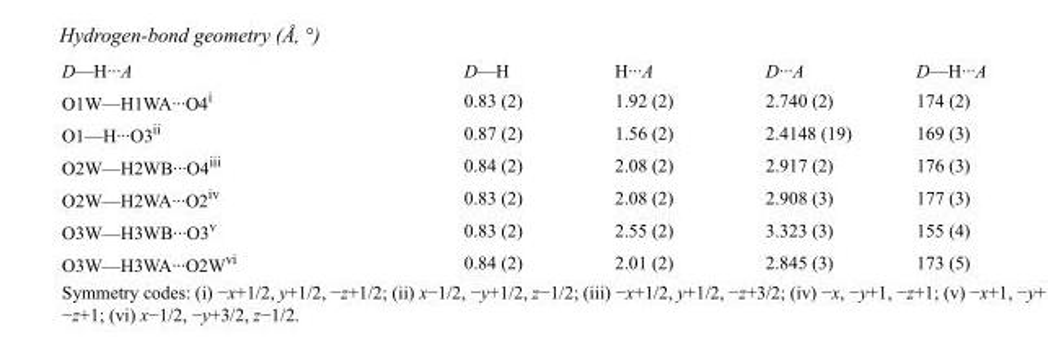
<table><tbody><tr><td>D—H···A</td><td>D—H</td><td>H···A</td><td>D···A</td><td>D—H···A</td></tr><tr><td>O1W—H1WA···O4<sup>i</sup></td><td>0.83 (2)</td><td>1.92 (2)</td><td>2.740 (2)</td><td>174 (2)</td></tr><tr><td>O1—H···O3<sup>ii</sup></td><td>0.87 (2)</td><td>1.56 (2)</td><td>2.4148 (19)</td><td>169 (3)</td></tr><tr><td>O2W—H2WB···O4<sup>iii</sup></td><td>0.84 (2)</td><td>2.08 (2)</td><td>2.917 (2)</td><td>176 (3)</td></tr><tr><td>O2W—H2WA···O2<sup>iv</sup></td><td>0.83 (2)</td><td>2.08 (2)</td><td>2.908 (3)</td><td>177 (3)</td></tr><tr><td>O3W—H3WB···O3<sup>v</sup></td><td>0.83 (2)</td><td>2.55 (2)</td><td>3.323 (3)</td><td>155 (4)</td></tr><tr><td>O3W—H3WA···O2W<sup>vi</sup></td><td>0.84 (2)</td><td>2.01 (2)</td><td>2.845 (3)</td><td>173 (5)</td></tr></tbody></table>